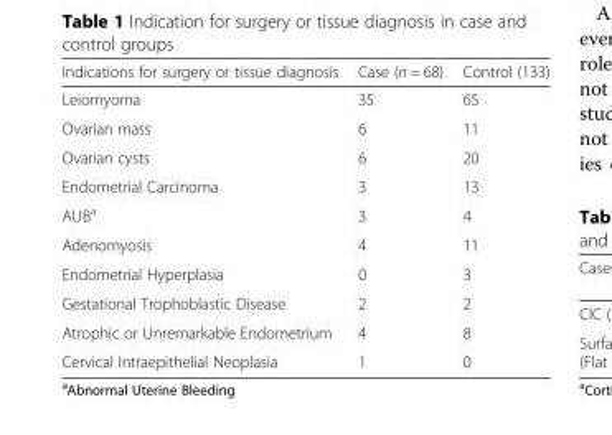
<table><thead><tr><td>Indications for surgery or tissue diagnosis</td><td>Case (n = 68)</td><td>Control (133)</td></tr></thead><tbody><tr><td>Leiomyoma</td><td>35</td><td>65</td></tr><tr><td>Ovarian mass</td><td>6</td><td>11</td></tr><tr><td>Ovarian cysts</td><td>6</td><td>20</td></tr><tr><td>Endometrial Carcinoma</td><td>3</td><td>13</td></tr><tr><td>AUB<sup>a</sup></td><td>3</td><td>4</td></tr><tr><td>Adenomyosis</td><td>4</td><td>11</td></tr><tr><td>Endometrial Hyperplasia</td><td>0</td><td>3</td></tr><tr><td>Gestational Trophoblastic Disease</td><td>2</td><td>2</td></tr><tr><td>Atrophic or Unremarkable Endometrium</td><td>4</td><td>8</td></tr><tr><td>Cervical Intraepithelial Neoplasia</td><td>1</td><td>0</td></tr></tbody></table>